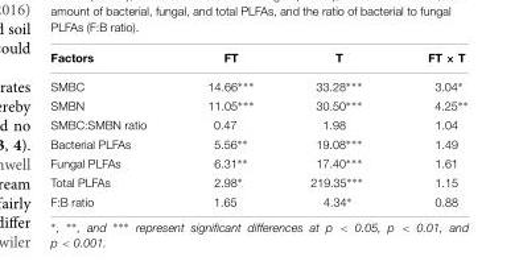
<table><thead><tr><td>Factors</td><td>FT</td><td>T</td><td>FT × T</td></tr></thead><tbody><tr><td>SMBC</td><td>14.66∗∗∗</td><td>33.28∗∗∗</td><td>3.04∗</td></tr><tr><td>SMBN</td><td>11.05∗∗∗</td><td>30.50∗∗∗</td><td>4.25∗∗</td></tr><tr><td>SMBC:SMBN ratio</td><td>0.47</td><td>1.98</td><td>1.04</td></tr><tr><td>Bacterial PLFAs</td><td>5.56∗∗</td><td>19.08∗∗∗</td><td>1.49</td></tr><tr><td>Fungal PLFAs</td><td>6.31∗∗</td><td>17.40∗∗∗</td><td>1.61</td></tr><tr><td>Total PLFAs</td><td>2.98∗</td><td>219.35∗∗∗</td><td>1.15</td></tr><tr><td>F:B ratio</td><td>1.65</td><td>4.34∗</td><td>0.88</td></tr></tbody></table>